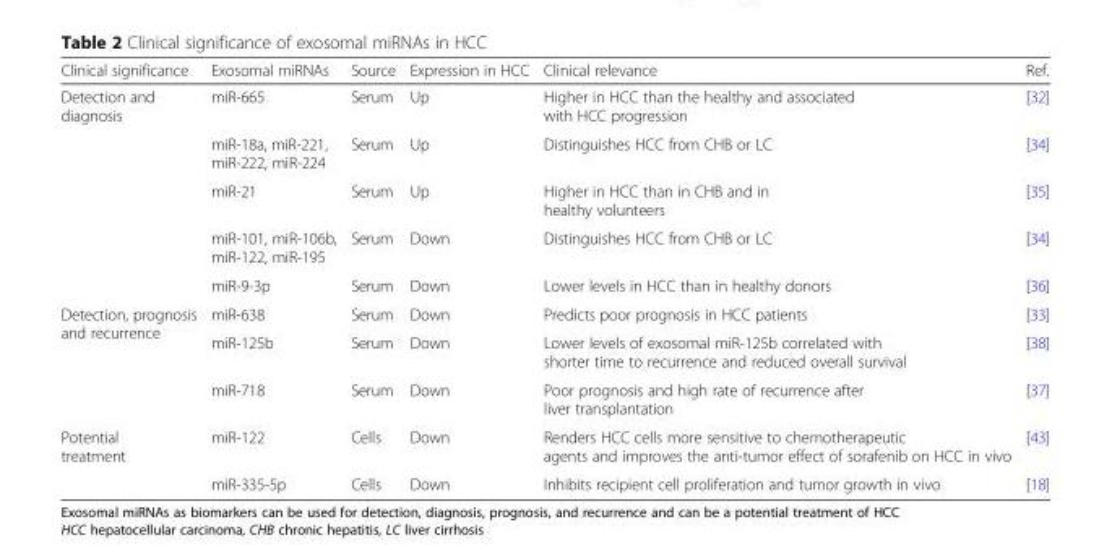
<table><thead><tr><td>Clinical significance</td><td>Exosomal miRNAs</td><td>Source</td><td>Expression in HCC</td><td>Clinical relevance</td><td>Ref.</td></tr></thead><tbody><tr><td rowspan="5">Detection and diagnosis</td><td>miR-665</td><td>Serum</td><td>Up</td><td>Higher in HCC than the healthy and associated with HCC progression</td><td>[32]</td></tr><tr><td>miR-18a, miR-221, miR-222, miR-224</td><td>Serum</td><td>Up</td><td>Distinguishes HCC from CHB or LC</td><td>[34]</td></tr><tr><td>miR-21</td><td>Serum</td><td>Up</td><td>Higher in HCC than in CHB and in healthy volunteers</td><td>[35]</td></tr><tr><td>miR-101, miR-106b, miR-122, miR-195</td><td>Serum</td><td>Down</td><td>Distinguishes HCC from CHB or LC</td><td>[34]</td></tr><tr><td>miR-9-3p</td><td>Serum</td><td>Down</td><td>Lower levels in HCC than in healthy donors</td><td>[36]</td></tr><tr><td rowspan="3">Detection, prognosis and recurrence</td><td>miR-638</td><td>Serum</td><td>Down</td><td>Predicts poor prognosis in HCC patients</td><td>[33]</td></tr><tr><td>miR-125b</td><td>Serum</td><td>Down</td><td>Lower levels of exosomal miR-125b correlated with shorter time to recurrence and reduced overall survival</td><td>[38]</td></tr><tr><td>miR-718</td><td>Serum</td><td>Down</td><td>Poor prognosis and high rate of recurrence after liver transplantation</td><td>[37]</td></tr><tr><td rowspan="2">Potential treatment</td><td>miR-122</td><td>Cells</td><td>Down</td><td>Renders HCC cells more sensitive to chemotherapeutic agents and improves the anti-tumor effect of sorafenib on HCC in vivo</td><td>[43]</td></tr><tr><td>miR-335-5p</td><td>Cells</td><td>Down</td><td>Inhibits recipient cell proliferation and tumor growth in vivo</td><td>[18]</td></tr></tbody></table>